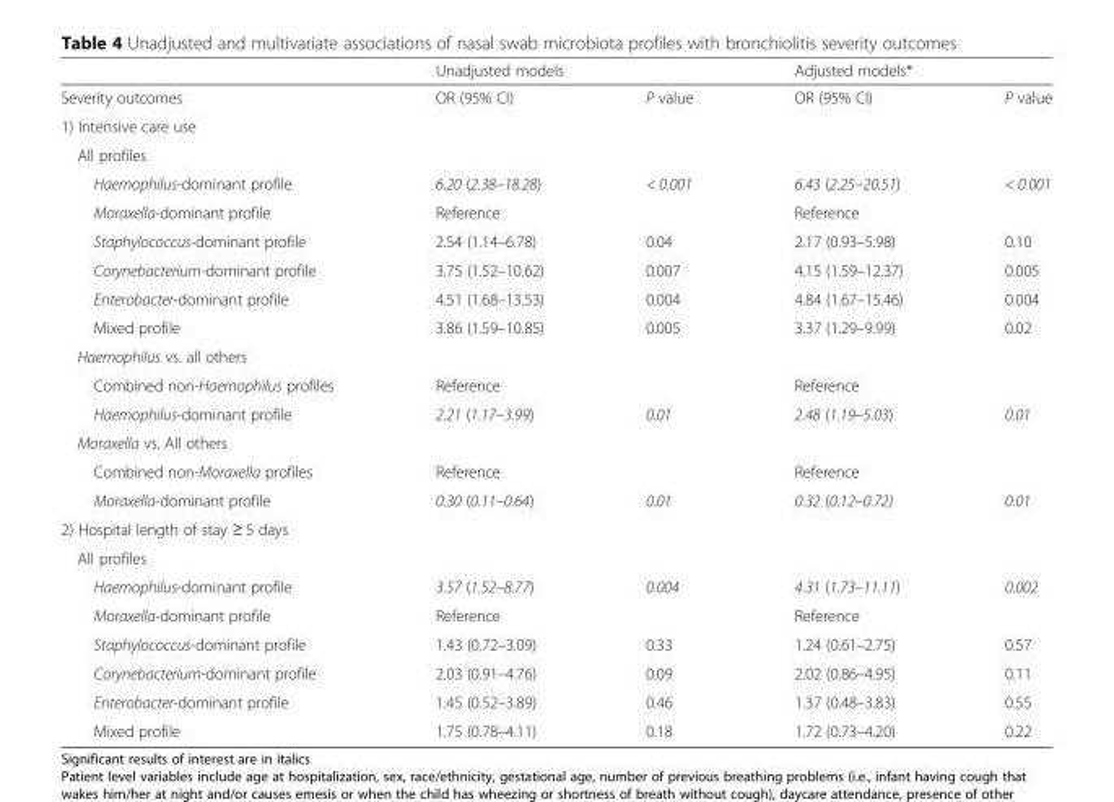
<table><thead><tr><td rowspan="2">Severity outcomes</td><td colspan="2">Unadjusted models</td><td colspan="2">Adjusted models*</td></tr><tr><td>OR (95% CI)</td><td>P value</td><td>OR (95% CI)</td><td>P value</td></tr></thead><tbody><tr><td colspan="5">1) Intensive care use</td></tr><tr><td colspan="5">All profiles</td></tr><tr><td>Haemophilus-dominant profile</td><td>6.20 (2.38–18.28)</td><td>&lt; 0.001</td><td>6.43 (2.25–20.51)</td><td>&lt; 0.001</td></tr><tr><td>Moraxella-dominant profile</td><td>Reference</td><td></td><td>Reference</td><td></td></tr><tr><td>Staphylococcus-dominant profile</td><td>2.54 (1.14–6.78)</td><td>0.04</td><td>2.17 (0.93–5.98)</td><td>0.10</td></tr><tr><td>Corynebacterium-dominant profile</td><td>3.75 (1.52–10.62)</td><td>0.007</td><td>4.15 (1.59–12.37)</td><td>0.005</td></tr><tr><td>Enterobacter-dominant profile</td><td>4.51 (1.68–13.53)</td><td>0.004</td><td>4.84 (1.67–15.46)</td><td>0.004</td></tr><tr><td>Mixed profile</td><td>3.86 (1.59–10.85)</td><td>0.005</td><td>3.37 (1.29–9.99)</td><td>0.02</td></tr><tr><td colspan="5">Haemophilus vs. all others</td></tr><tr><td>Combined non-Haemophilus profiles</td><td>Reference</td><td></td><td>Reference</td><td></td></tr><tr><td>Haemophilus-dominant profile</td><td>2.21 (1.17–3.99)</td><td>0.01</td><td>2.48 (1.19–5.03)</td><td>0.01</td></tr><tr><td colspan="5">Moraxella vs. All others</td></tr><tr><td>Combined non-Moraxella profiles</td><td>Reference</td><td></td><td>Reference</td><td></td></tr><tr><td>Moraxella-dominant profile</td><td>0.30 (0.11–0.64)</td><td>0.01</td><td>0.32 (0.12–0.72)</td><td>0.01</td></tr><tr><td colspan="5">2) Hospital length of stay ≥ 5 days</td></tr><tr><td colspan="5">All profiles</td></tr><tr><td>Haemophilus-dominant profile</td><td>3.57 (1.52–8.77)</td><td>0.004</td><td>4.31 (1.73–11.11)</td><td>0.002</td></tr><tr><td>Moraxella-dominant profile</td><td>Reference</td><td></td><td>Reference</td><td></td></tr><tr><td>Staphylococcus-dominant profile</td><td>1.43 (0.72–3.09)</td><td>0.33</td><td>1.24 (0.61–2.75)</td><td>0.57</td></tr><tr><td>Corynebacterium-dominant profile</td><td>2.03 (0.91–4.76)</td><td>0.09</td><td>2.02 (0.86–4.95)</td><td>0.11</td></tr><tr><td>Enterobacter-dominant profile</td><td>1.45 (0.52–3.89)</td><td>0.46</td><td>1.37 (0.48–3.83)</td><td>0.55</td></tr><tr><td>Mixed profile</td><td>1.75 (0.78–4.11)</td><td>0.18</td><td>1.72 (0.73–4.20)</td><td>0.22</td></tr></tbody></table>